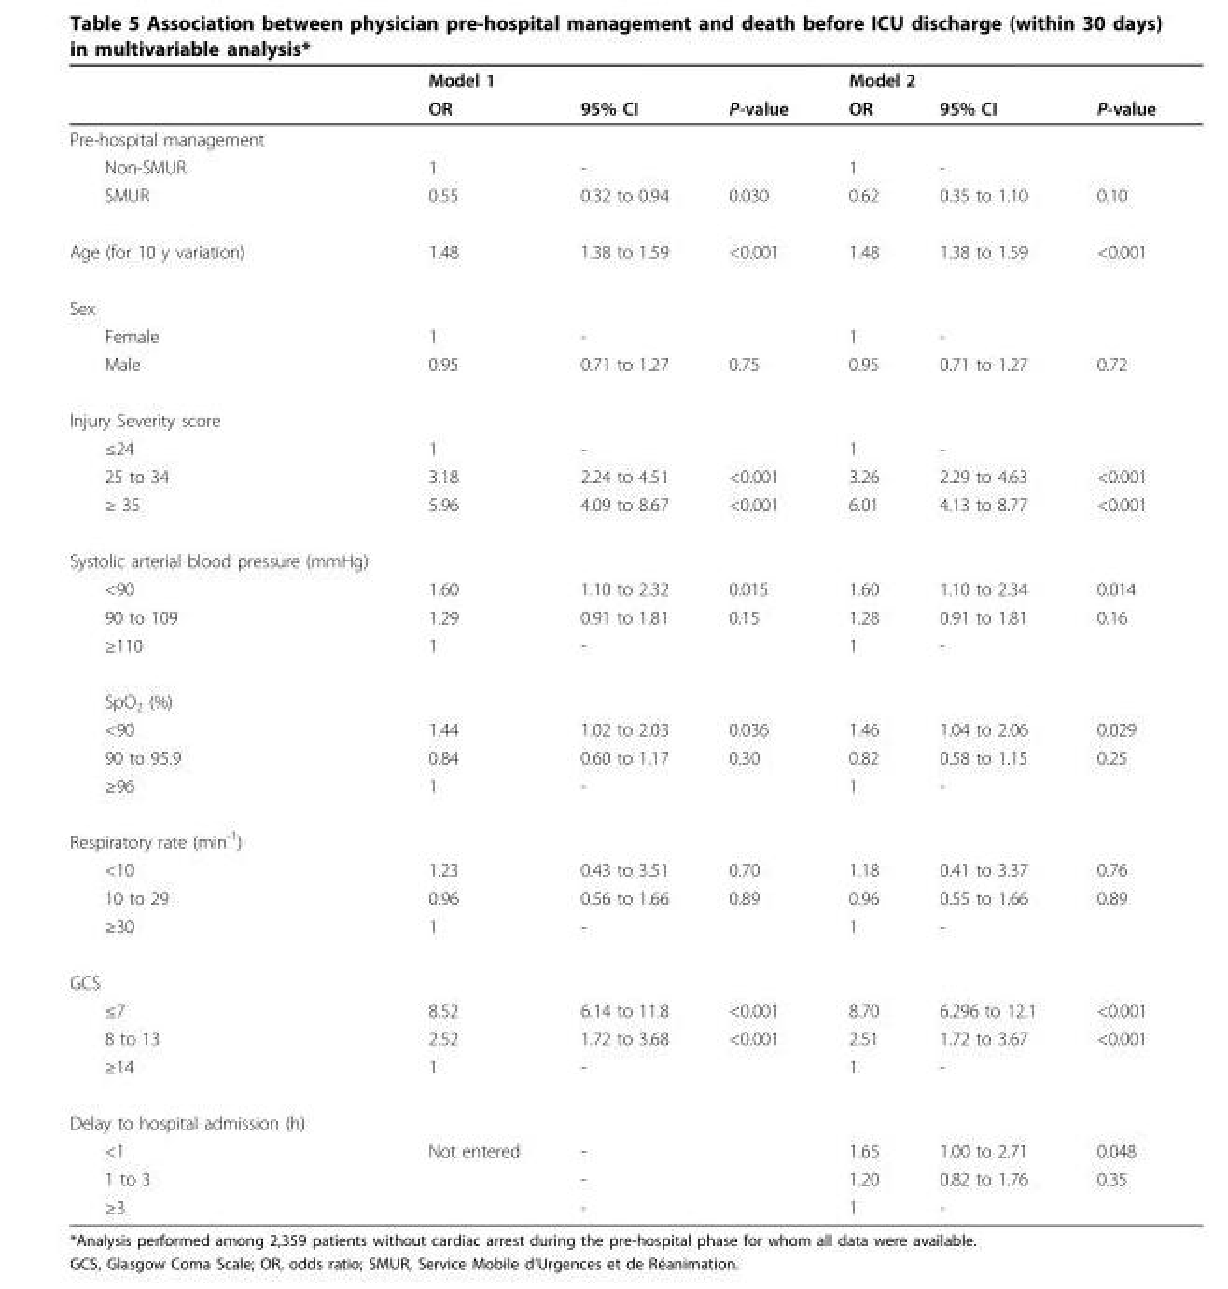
<table><thead><tr><td rowspan="2"></td><td colspan="3">Model 1</td><td colspan="3">Model 2</td></tr><tr><td>OR</td><td>95% CI</td><td>P-value</td><td>OR</td><td>95% CI</td><td>P-value</td></tr></thead><tbody><tr><td colspan="7">Pre-hospital management</td></tr><tr><td>Non-SMUR</td><td>1</td><td>-</td><td></td><td>1</td><td>-</td><td></td></tr><tr><td>SMUR</td><td>0.55</td><td>0.32 to 0.94</td><td>0.030</td><td>0.62</td><td>0.35 to 1.10</td><td>0.10</td></tr><tr><td>Age (for 10 y variation)</td><td>1.48</td><td>1.38 to 1.59</td><td>&lt;0.001</td><td>1.48</td><td>1.38 to 1.59</td><td>&lt;0.001</td></tr><tr><td colspan="7">Sex</td></tr><tr><td>Female</td><td>1</td><td>-</td><td></td><td>1</td><td>-</td><td></td></tr><tr><td>Male</td><td>0.95</td><td>0.71 to 1.27</td><td>0.75</td><td>0.95</td><td>0.71 to 1.27</td><td>0.72</td></tr><tr><td colspan="7">Injury Severity score</td></tr><tr><td>≤24</td><td>1</td><td>-</td><td></td><td>1</td><td>-</td><td></td></tr><tr><td>25 to 34</td><td>3.18</td><td>2.24 to 4.51</td><td>&lt;0.001</td><td>3.26</td><td>2.29 to 4.63</td><td>&lt;0.001</td></tr><tr><td>≥ 35</td><td>5.96</td><td>4.09 to 8.67</td><td>&lt;0.001</td><td>6.01</td><td>4.13 to 8.77</td><td>&lt;0.001</td></tr><tr><td colspan="7">Systolic arterial blood pressure (mmHg)</td></tr><tr><td>&lt;90</td><td>1.60</td><td>1.10 to 2.32</td><td>0.015</td><td>1.60</td><td>1.10 to 2.34</td><td>0.014</td></tr><tr><td>90 to 109</td><td>1.29</td><td>0.91 to 1.81</td><td>0.15</td><td>1.28</td><td>0.91 to 1.81</td><td>0.16</td></tr><tr><td>≥110</td><td>1</td><td>-</td><td></td><td>1</td><td>-</td><td></td></tr><tr><td colspan="7">SpO<sub>2</sub> (%)</td></tr><tr><td>&lt;90</td><td>1.44</td><td>1.02 to 2.03</td><td>0.036</td><td>1.46</td><td>1.04 to 2.06</td><td>0.029</td></tr><tr><td>90 to 95.9</td><td>0.84</td><td>0.60 to 1.17</td><td>0.30</td><td>0.82</td><td>0.58 to 1.15</td><td>0.25</td></tr><tr><td>≥96</td><td>1</td><td>-</td><td></td><td>1</td><td>-</td><td></td></tr><tr><td colspan="7">Respiratory rate (min<sup>-1</sup>)</td></tr><tr><td>&lt;10</td><td>1.23</td><td>0.43 to 3.51</td><td>0.70</td><td>1.18</td><td>0.41 to 3.37</td><td>0.76</td></tr><tr><td>10 to 29</td><td>0.96</td><td>0.56 to 1.66</td><td>0.89</td><td>0.96</td><td>0.55 to 1.66</td><td>0.89</td></tr><tr><td>≥30</td><td>1</td><td>-</td><td></td><td>1</td><td>-</td><td></td></tr><tr><td colspan="7">GCS</td></tr><tr><td>≤7</td><td>8.52</td><td>6.14 to 11.8</td><td>&lt;0.001</td><td>8.70</td><td>6.296 to 12.1</td><td>&lt;0.001</td></tr><tr><td>8 to 13</td><td>2.52</td><td>1.72 to 3.68</td><td>&lt;0.001</td><td>2.51</td><td>1.72 to 3.67</td><td>&lt;0.001</td></tr><tr><td>≥14</td><td>1</td><td>-</td><td></td><td>1</td><td>-</td><td></td></tr><tr><td colspan="7">Delay to hospital admission (h)</td></tr><tr><td>&lt;1</td><td>Not entered</td><td>-</td><td></td><td>1.65</td><td>1.00 to 2.71</td><td>0.048</td></tr><tr><td>1 to 3</td><td></td><td>-</td><td></td><td>1.20</td><td>0.82 to 1.76</td><td>0.35</td></tr><tr><td>≥3</td><td></td><td>-</td><td></td><td>1</td><td>-</td><td></td></tr></tbody></table>